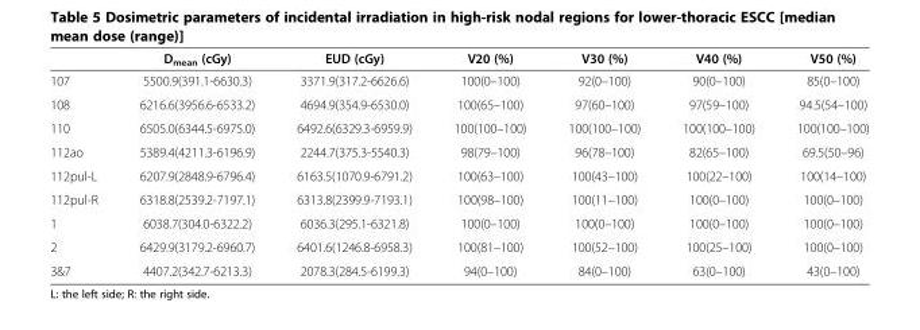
<table><thead><tr><td></td><td>D<sub>mean</sub> (cGy)</td><td>EUD (cGy)</td><td>V20 (%)</td><td>V30 (%)</td><td>V40 (%)</td><td>V50 (%)</td></tr></thead><tbody><tr><td>107</td><td>5500.9(391.1-6630.3)</td><td>3371.9(317.2-6626.6)</td><td>100(0–100)</td><td>92(0–100)</td><td>90(0–100)</td><td>85(0–100)</td></tr><tr><td>108</td><td>6216.6(3956.6-6533.2)</td><td>4694.9(354.9-6530.0)</td><td>100(65–100)</td><td>97(60–100)</td><td>97(59–100)</td><td>94.5(54–100)</td></tr><tr><td>110</td><td>6505.0(6344.5-6975.0)</td><td>6492.6(6329.3-6959.9)</td><td>100(100–100)</td><td>100(100–100)</td><td>100(100–100)</td><td>100(100–100)</td></tr><tr><td>112ao</td><td>5389.4(4211.3-6196.9)</td><td>2244.7(375.3-5540.3)</td><td>98(79–100)</td><td>96(78–100)</td><td>82(65–100)</td><td>69.5(50–96)</td></tr><tr><td>112pul-L</td><td>6207.9(2848.9-6796.4)</td><td>6163.5(1070.9-6791.2)</td><td>100(63–100)</td><td>100(43–100)</td><td>100(22–100)</td><td>100(14–100)</td></tr><tr><td>112pul-R</td><td>6318.8(2539.2-7197.1)</td><td>6313.8(2399.9-7193.1)</td><td>100(98–100)</td><td>100(11–100)</td><td>100(0–100)</td><td>100(0–100)</td></tr><tr><td>1</td><td>6038.7(304.0-6322.2)</td><td>6036.3(295.1-6321.8)</td><td>100(0–100)</td><td>100(0–100)</td><td>100(0–100)</td><td>100(0–100)</td></tr><tr><td>2</td><td>6429.9(3179.2-6960.7)</td><td>6401.6(1246.8-6958.3)</td><td>100(81–100)</td><td>100(52–100)</td><td>100(25–100)</td><td>100(0–100)</td></tr><tr><td>3&amp;7</td><td>4407.2(342.7-6213.3)</td><td>2078.3(284.5-6199.3)</td><td>94(0–100)</td><td>84(0–100)</td><td>63(0–100)</td><td>43(0–100)</td></tr></tbody></table>